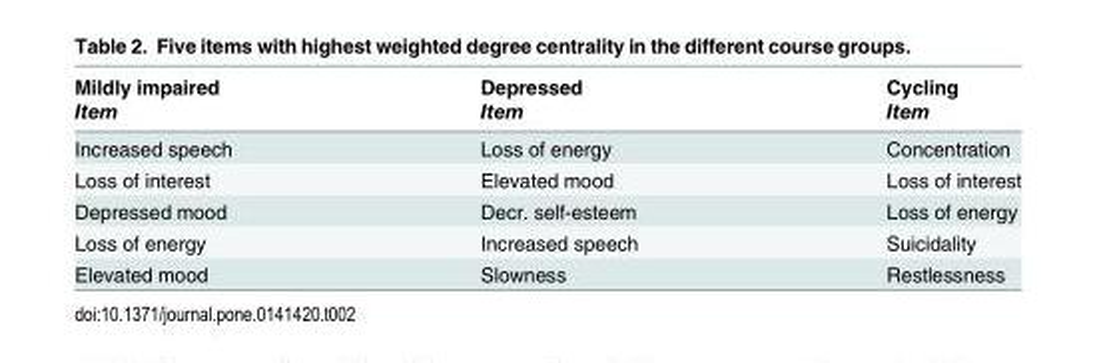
<table><thead><tr><td rowspan="2">Mildly impaired Item</td><td rowspan="2">Depressed Item</td><td rowspan="2">Cycling Item</td></tr><tr></tr></thead><tbody><tr><td>Increased speech</td><td>Loss of energy</td><td>Concentration</td></tr><tr><td>Loss of interest</td><td>Elevated mood</td><td>Loss of interest</td></tr><tr><td>Depressed mood</td><td>Decr. self-esteem</td><td>Loss of energy</td></tr><tr><td>Loss of energy</td><td>Increased speech</td><td>Suicidality</td></tr><tr><td>Elevated mood</td><td>Slowness</td><td>Restlessness</td></tr></tbody></table>